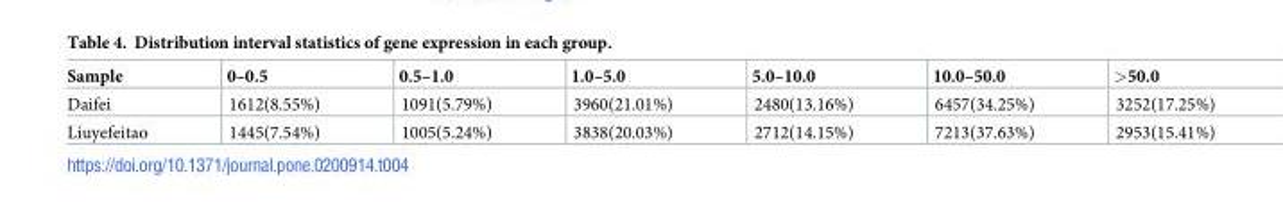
<table><thead><tr><td>Sample</td><td>0–0.5</td><td>0.5–1.0</td><td>1.0–5.0</td><td>5.0–10.0</td><td>10.0–50.0</td><td>&gt;50.0</td></tr></thead><tbody><tr><td>Daifei</td><td>1612(8.55%)</td><td>1091(5.79%)</td><td>3960(21.01%)</td><td>2480(13.16%)</td><td>6457(34.25%)</td><td>3252(17.25%)</td></tr><tr><td>Liuyefeitao</td><td>1445(7.54%)</td><td>1005(5.24%)</td><td>3838(20.03%)</td><td>2712(14.15%)</td><td>7213(37.63%)</td><td>2953(15.41%)</td></tr></tbody></table>